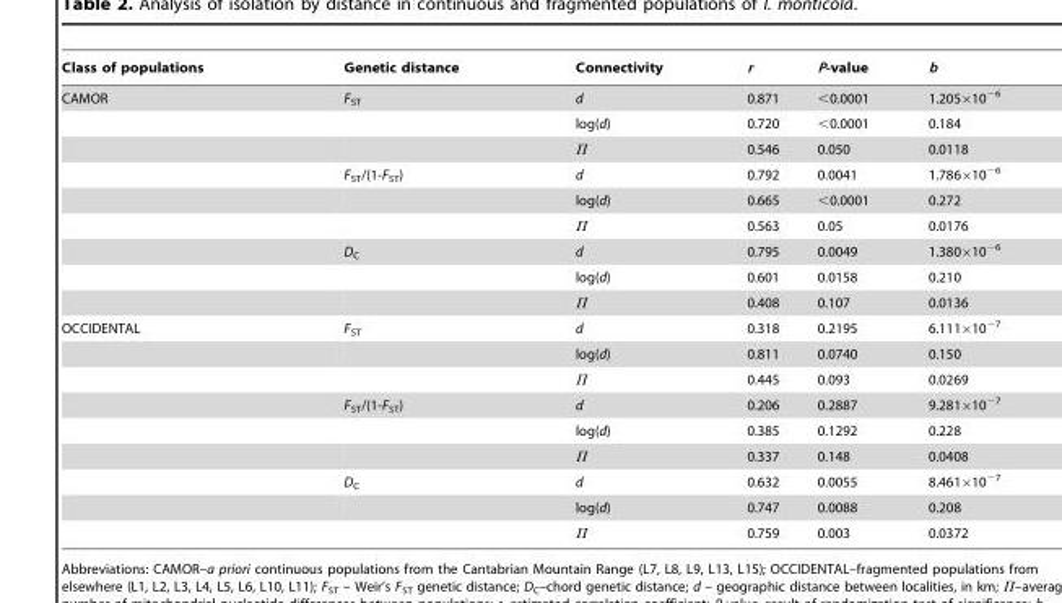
<table><thead><tr><td>Class of populations</td><td>Genetic distance</td><td>Connectivity</td><td>r</td><td>P-value</td><td>b</td></tr></thead><tbody><tr><td rowspan="9">CAMOR</td><td>F<sub>ST</sub></td><td>d</td><td>0.871</td><td>&lt;0.0001</td><td>1.205×10<sup>−6</sup></td></tr><tr><td></td><td>log(d)</td><td>0.720</td><td>&lt;0.0001</td><td>0.184</td></tr><tr><td></td><td>Π</td><td>0.546</td><td>0.050</td><td>0.0118</td></tr><tr><td>F<sub>ST</sub>/(1-F<sub>ST</sub>)</td><td>d</td><td>0.792</td><td>0.0041</td><td>1.786×10<sup>−6</sup></td></tr><tr><td></td><td>log(d)</td><td>0.665</td><td>&lt;0.0001</td><td>0.272</td></tr><tr><td></td><td>Π</td><td>0.563</td><td>0.05</td><td>0.0176</td></tr><tr><td>D<sub>C</sub></td><td>d</td><td>0.795</td><td>0.0049</td><td>1.380×10<sup>−6</sup></td></tr><tr><td></td><td>log(d)</td><td>0.601</td><td>0.0158</td><td>0.210</td></tr><tr><td></td><td>Π</td><td>0.408</td><td>0.107</td><td>0.0136</td></tr><tr><td rowspan="9">OCCIDENTAL</td><td>F<sub>ST</sub></td><td>d</td><td>0.318</td><td>0.2195</td><td>6.111×10<sup>−7</sup></td></tr><tr><td></td><td>log(d)</td><td>0.811</td><td>0.0740</td><td>0.150</td></tr><tr><td></td><td>Π</td><td>0.445</td><td>0.093</td><td>0.0269</td></tr><tr><td>F<sub>ST</sub>/(1-F<sub>ST</sub>)</td><td>d</td><td>0.206</td><td>0.2887</td><td>9.281×10<sup>−7</sup></td></tr><tr><td></td><td>log(d)</td><td>0.385</td><td>0.1292</td><td>0.228</td></tr><tr><td></td><td>Π</td><td>0.337</td><td>0.148</td><td>0.0408</td></tr><tr><td>D<sub>C</sub></td><td>d</td><td>0.632</td><td>0.0055</td><td>8.461×10<sup>−7</sup></td></tr><tr><td></td><td>log(d)</td><td>0.747</td><td>0.0088</td><td>0.208</td></tr><tr><td></td><td>Π</td><td>0.759</td><td>0.003</td><td>0.0372</td></tr></tbody></table>